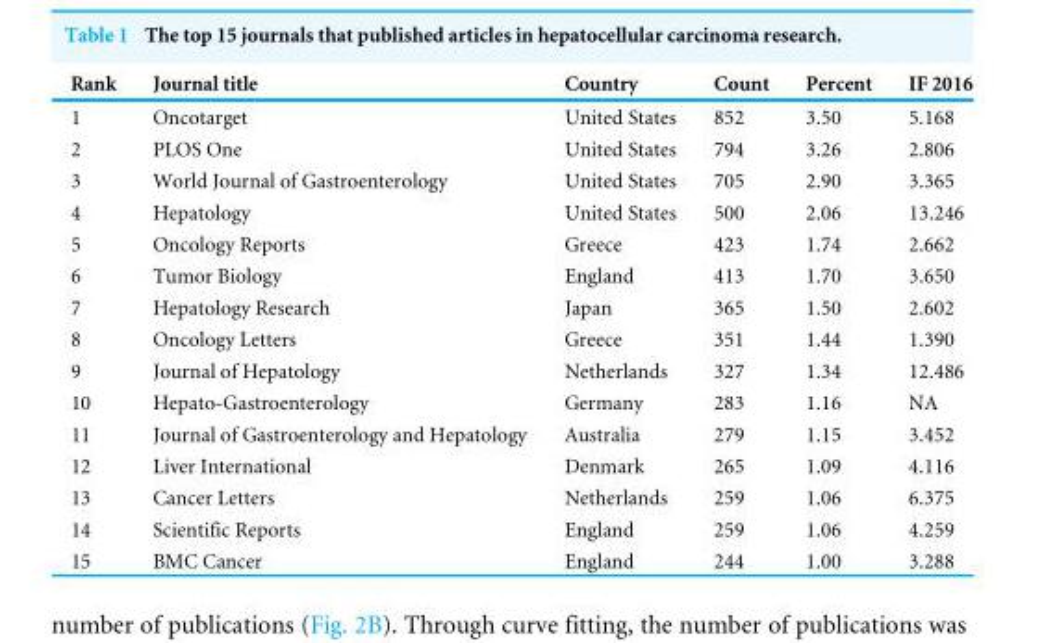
<table><thead><tr><td>Rank</td><td>Journal title</td><td>Country</td><td>Count</td><td>Percent</td><td>IF 2016</td></tr></thead><tbody><tr><td>1</td><td>Oncotarget</td><td>United States</td><td>852</td><td>3.50</td><td>5.168</td></tr><tr><td>2</td><td>PLOS One</td><td>United States</td><td>794</td><td>3.26</td><td>2.806</td></tr><tr><td>3</td><td>World Journal of Gastroenterology</td><td>United States</td><td>705</td><td>2.90</td><td>3.365</td></tr><tr><td>4</td><td>Hepatology</td><td>United States</td><td>500</td><td>2.06</td><td>13.246</td></tr><tr><td>5</td><td>Oncology Reports</td><td>Greece</td><td>423</td><td>1.74</td><td>2.662</td></tr><tr><td>6</td><td>Tumor Biology</td><td>England</td><td>413</td><td>1.70</td><td>3.650</td></tr><tr><td>7</td><td>Hepatology Research</td><td>Japan</td><td>365</td><td>1.50</td><td>2.602</td></tr><tr><td>8</td><td>Oncology Letters</td><td>Greece</td><td>351</td><td>1.44</td><td>1.390</td></tr><tr><td>9</td><td>Journal of Hepatology</td><td>Netherlands</td><td>327</td><td>1.34</td><td>12.486</td></tr><tr><td>10</td><td>Hepato-Gastroenterology</td><td>Germany</td><td>283</td><td>1.16</td><td>NA</td></tr><tr><td>11</td><td>Journal of Gastroenterology and Hepatology</td><td>Australia</td><td>279</td><td>1.15</td><td>3.452</td></tr><tr><td>12</td><td>Liver International</td><td>Denmark</td><td>265</td><td>1.09</td><td>4.116</td></tr><tr><td>13</td><td>Cancer Letters</td><td>Netherlands</td><td>259</td><td>1.06</td><td>6.375</td></tr><tr><td>14</td><td>Scientific Reports</td><td>England</td><td>259</td><td>1.06</td><td>4.259</td></tr><tr><td>15</td><td>BMC Cancer</td><td>England</td><td>244</td><td>1.00</td><td>3.288</td></tr></tbody></table>